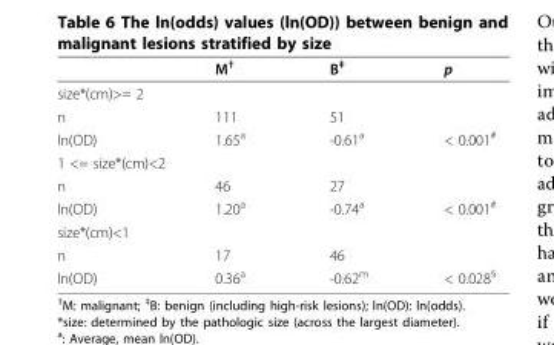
<table><thead><tr><td></td><td>M<sup>†</sup></td><td>B<sup>‡</sup></td><td>p</td></tr></thead><tbody><tr><td colspan="4">size*(cm)&gt;= 2</td></tr><tr><td>n</td><td>111</td><td>51</td><td></td></tr><tr><td>ln(OD)</td><td>1.65<sup>a</sup></td><td>-0.61<sup>a</sup></td><td>&lt; 0.001<sup>#</sup></td></tr><tr><td colspan="4">1 &lt;= size*(cm)&lt;2</td></tr><tr><td>n</td><td>46</td><td>27</td><td></td></tr><tr><td>ln(OD)</td><td>1.20<sup>a</sup></td><td>-0.74<sup>a</sup></td><td>&lt; 0.001<sup>#</sup></td></tr><tr><td colspan="4">size*(cm)&lt;1</td></tr><tr><td>n</td><td>17</td><td>46</td><td></td></tr><tr><td>ln(OD)</td><td>0.36<sup>a</sup></td><td>-0.62<sup>m</sup></td><td>&lt; 0.028<sup>§</sup></td></tr></tbody></table>